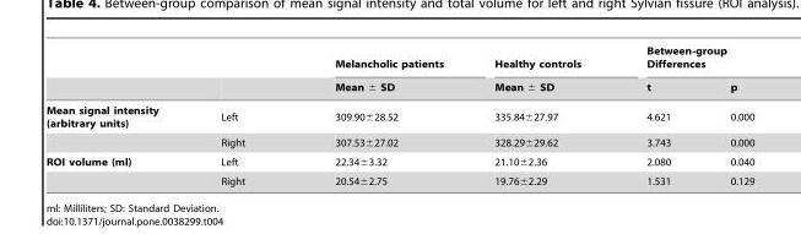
<table><thead><tr><td rowspan="2"></td><td rowspan="2"></td><td rowspan="2">Melancholic patients Mean ± SD</td><td rowspan="2">Healthy controls Mean ± SD</td><td colspan="2">Between-group Differences</td></tr><tr><td>t</td><td>p</td></tr></thead><tbody><tr><td rowspan="2">Mean signal intensity (arbitrary units)</td><td>Left</td><td>309.90±28.52</td><td>335.84±27.97</td><td>4.621</td><td>0.000</td></tr><tr><td>Right</td><td>307.53±27.02</td><td>328.29±29.62</td><td>3.743</td><td>0.000</td></tr><tr><td rowspan="2">ROI volume (ml)</td><td>Left</td><td>22.34±3.32</td><td>21.10±2.36</td><td>2.080</td><td>0.040</td></tr><tr><td>Right</td><td>20.54±2.75</td><td>19.76±2.29</td><td>1.531</td><td>0.129</td></tr></tbody></table>